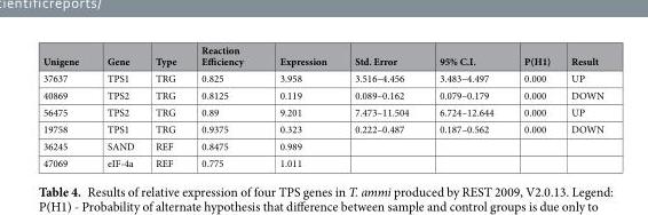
<table><thead><tr><td>Unigene</td><td>Gene</td><td>Type</td><td>Reaction Efficiency</td><td>Expression</td><td>Std. Error</td><td>95% C.I.</td><td>P(H1)</td><td>Result</td></tr></thead><tbody><tr><td>37637</td><td>TPS1</td><td>TRG</td><td>0.825</td><td>3.958</td><td>3.516–4.456</td><td>3.483–4.497</td><td>0.000</td><td>UP</td></tr><tr><td>40869</td><td>TPS2</td><td>TRG</td><td>0.8125</td><td>0.119</td><td>0.089–0.162</td><td>0.079–0.179</td><td>0.000</td><td>DOWN</td></tr><tr><td>56475</td><td>TPS2</td><td>TRG</td><td>0.89</td><td>9.201</td><td>7.473–11.504</td><td>6.724–12.644</td><td>0.000</td><td>UP</td></tr><tr><td>19758</td><td>TPS1</td><td>TRG</td><td>0.9375</td><td>0.323</td><td>0.222–0.487</td><td>0.187–0.562</td><td>0.000</td><td>DOWN</td></tr><tr><td>36245</td><td>SAND</td><td>REF</td><td>0.8475</td><td>0.989</td><td></td><td></td><td></td><td></td></tr><tr><td>47069</td><td>eIF-4a</td><td>REF</td><td>0.775</td><td>1.011</td><td></td><td></td><td></td><td></td></tr></tbody></table>